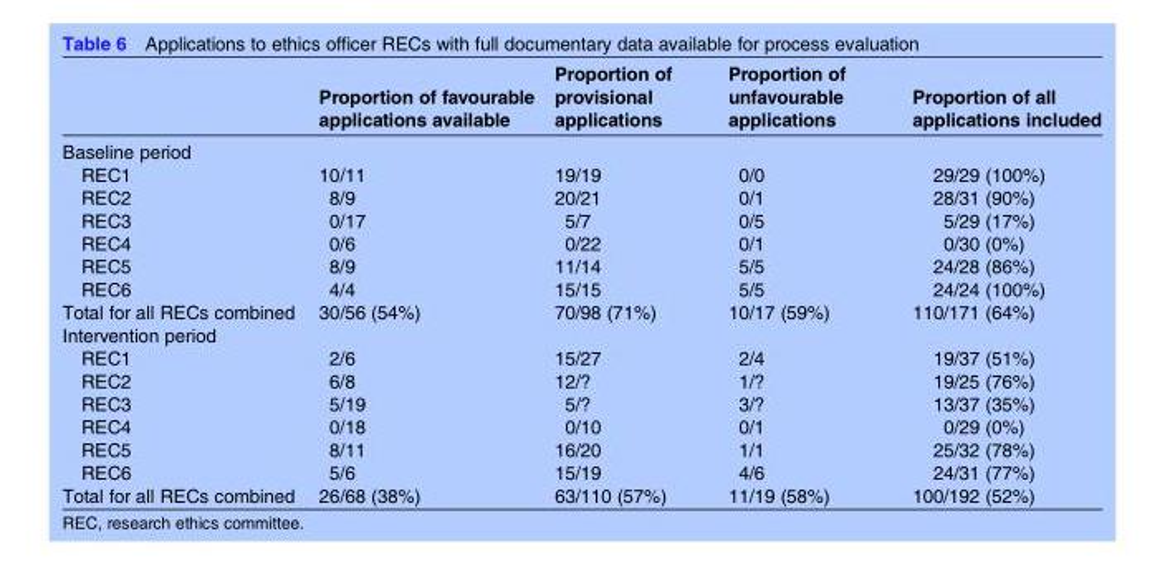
<table><thead><tr><td></td><td>Proportion of favourable applications available</td><td>Proportion of provisional applications</td><td>Proportion of unfavourable applications</td><td>Proportion of all applications included</td></tr></thead><tbody><tr><td colspan="5">Baseline period</td></tr><tr><td>REC1</td><td>10/11</td><td>19/19</td><td>0/0</td><td>29/29 (100%)</td></tr><tr><td>REC2</td><td>8/9</td><td>20/21</td><td>0/1</td><td>28/31 (90%)</td></tr><tr><td>REC3</td><td>0/17</td><td>5/7</td><td>0/5</td><td>5/29 (17%)</td></tr><tr><td>REC4</td><td>0/6</td><td>0/22</td><td>0/1</td><td>0/30 (0%)</td></tr><tr><td>REC5</td><td>8/9</td><td>11/14</td><td>5/5</td><td>24/28 (86%)</td></tr><tr><td>REC6</td><td>4/4</td><td>15/15</td><td>5/5</td><td>24/24 (100%)</td></tr><tr><td>Total for all RECs combined</td><td>30/56 (54%)</td><td>70/98 (71%)</td><td>10/17 (59%)</td><td>110/171 (64%)</td></tr><tr><td colspan="5">Intervention period</td></tr><tr><td>REC1</td><td>2/6</td><td>15/27</td><td>2/4</td><td>19/37 (51%)</td></tr><tr><td>REC2</td><td>6/8</td><td>12/?</td><td>1/?</td><td>19/25 (76%)</td></tr><tr><td>REC3</td><td>5/19</td><td>5/?</td><td>3/?</td><td>13/37 (35%)</td></tr><tr><td>REC4</td><td>0/18</td><td>0/10</td><td>0/1</td><td>0/29 (0%)</td></tr><tr><td>REC5</td><td>8/11</td><td>16/20</td><td>1/1</td><td>25/32 (78%)</td></tr><tr><td>REC6</td><td>5/6</td><td>15/19</td><td>4/6</td><td>24/31 (77%)</td></tr><tr><td>Total for all RECs combined</td><td>26/68 (38%)</td><td>63/110 (57%)</td><td>11/19 (58%)</td><td>100/192 (52%)</td></tr></tbody></table>